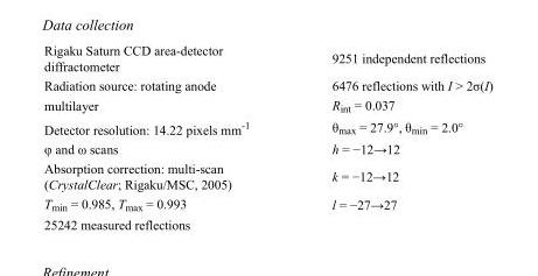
<table><tbody><tr><td>Rigaku Saturn CCD area-detector diffractometer</td><td>9251 independent reflections</td></tr><tr><td>Radiation source: rotating anode</td><td>6476 reflections with I &gt; 2σ(I)</td></tr><tr><td>multilayer</td><td>R<sub>int</sub> = 0.037</td></tr><tr><td>Detector resolution: 14.22 pixels mm<sup>-1</sup></td><td>θ<sub>max</sub> = 27.9°, θ<sub>min</sub> = 2.0°</td></tr><tr><td>φ and ω scans</td><td>h = −12→12</td></tr><tr><td>Absorption correction: multi-scan (CrystalClear; Rigaku/MSC, 2005)</td><td>k = −12→12</td></tr><tr><td>T<sub>min</sub> = 0.985, T<sub>max</sub> = 0.993</td><td>l = −27→27</td></tr><tr><td>25242 measured reflections</td><td></td></tr></tbody></table>